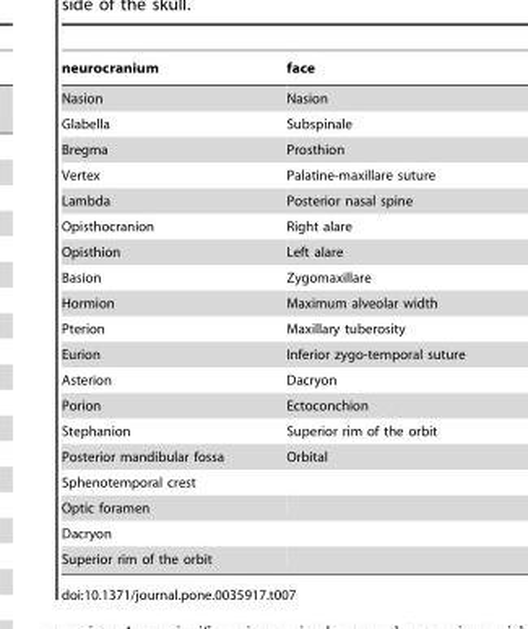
<table><thead><tr><td>neurocranium</td><td>face</td></tr></thead><tbody><tr><td>Nasion</td><td>Nasion</td></tr><tr><td>Glabella</td><td>Subspinale</td></tr><tr><td>Bregma</td><td>Prosthion</td></tr><tr><td>Vertex</td><td>Palatine-maxillare suture</td></tr><tr><td>Lambda</td><td>Posterior nasal spine</td></tr><tr><td>Opisthocranion</td><td>Right alare</td></tr><tr><td>Opisthion</td><td>Left alare</td></tr><tr><td>Basion</td><td>Zygomaxillare</td></tr><tr><td>Hormion</td><td>Maximum alveolar width</td></tr><tr><td>Pterion</td><td>Maxillary tuberosity</td></tr><tr><td>Eurion</td><td>Inferior zygo-temporal suture</td></tr><tr><td>Asterion</td><td>Dacryon</td></tr><tr><td>Porion</td><td>Ectoconchion</td></tr><tr><td>Stephanion</td><td>Superior rim of the orbit</td></tr><tr><td>Posterior mandibular fossa</td><td>Orbital</td></tr><tr><td colspan="2">Sphenotemporal crest</td></tr><tr><td colspan="2">Optic foramen</td></tr><tr><td colspan="2">Dacryon</td></tr><tr><td>Superior rim of the orbit</td><td></td></tr></tbody></table>